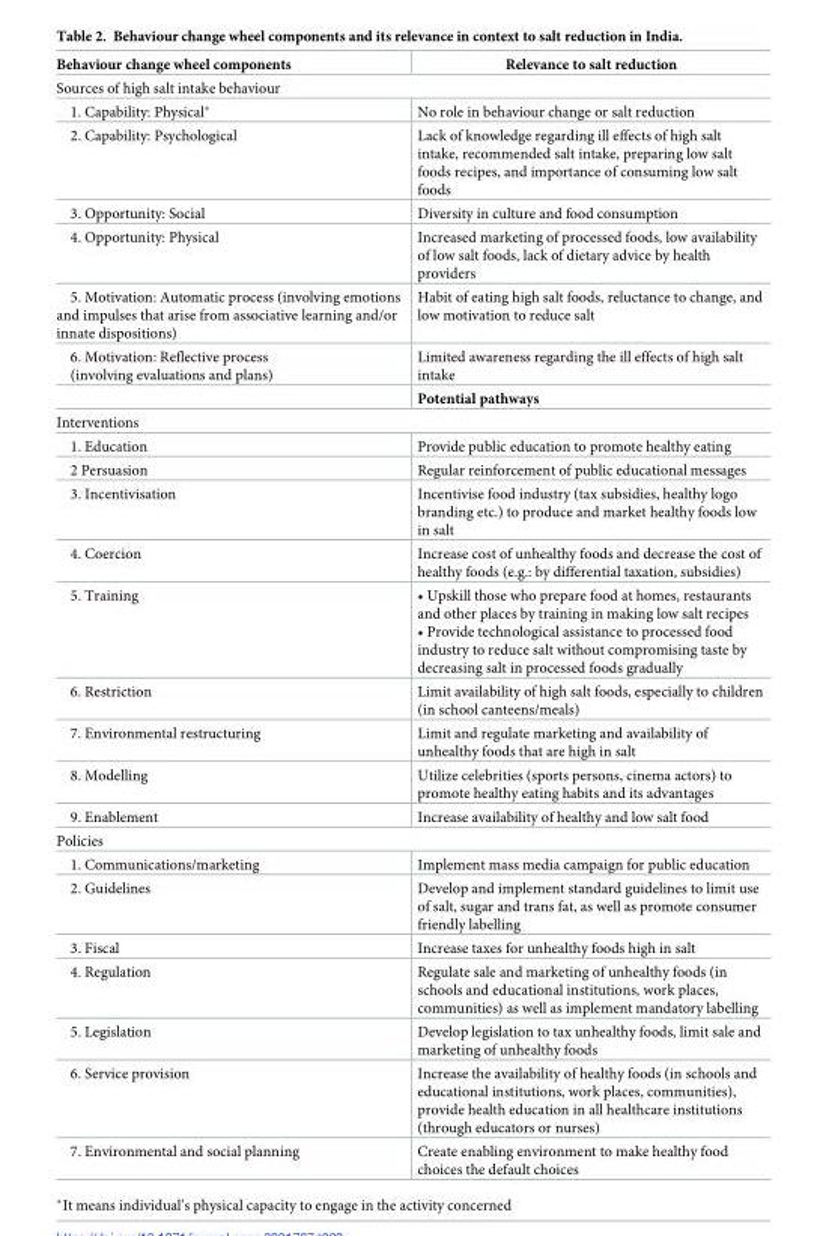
<table><thead><tr><td>Behaviour change wheel components</td><td>Relevance to salt reduction</td></tr></thead><tbody><tr><td colspan="2">Sources of high salt intake behaviour</td></tr><tr><td>1. Capability: Physical*</td><td>No role in behaviour change or salt reduction</td></tr><tr><td>2. Capability: Psychological</td><td>Lack of knowledge regarding ill effects of high salt intake, recommended salt intake, preparing low salt foods recipes, and importance of consuming low salt foods</td></tr><tr><td>3. Opportunity: Social</td><td>Diversity in culture and food consumption</td></tr><tr><td>4. Opportunity: Physical</td><td>Increased marketing of processed foods, low availability of low salt foods, lack of dietary advice by health providers</td></tr><tr><td>5. Motivation: Automatic process (involving emotions and impulses that arise from associative learning and/or innate dispositions)</td><td>Habit of eating high salt foods, reluctance to change, and low motivation to reduce salt</td></tr><tr><td rowspan="2">6. Motivation: Reflective process (involving evaluations and plans)</td><td>Limited awareness regarding the ill effects of high salt intake</td></tr><tr><td>Potential pathways</td></tr><tr><td colspan="2">Interventions</td></tr><tr><td>1. Education</td><td>Provide public education to promote healthy eating</td></tr><tr><td>2 Persuasion</td><td>Regular reinforcement of public educational messages</td></tr><tr><td>3. Incentivisation</td><td>Incentivise food industry (tax subsidies, healthy logo branding etc.) to produce and market healthy foods low in salt</td></tr><tr><td>4. Coercion</td><td>Increase cost of unhealthy foods and decrease the cost of healthy foods (e.g.: by differential taxation, subsidies)</td></tr><tr><td>5. Training</td><td>• Upskill those who prepare food at homes, restaurants and other places by training in making low salt recipes • Provide technological assistance to processed food industry to reduce salt without compromising taste by decreasing salt in processed foods gradually</td></tr><tr><td>6. Restriction</td><td>Limit availability of high salt foods, especially to children (in school canteens/meals)</td></tr><tr><td>7. Environmental restructuring</td><td>Limit and regulate marketing and availability of unhealthy foods that are high in salt</td></tr><tr><td>8. Modelling</td><td>Utilize celebrities (sports persons, cinema actors) to promote healthy eating habits and its advantages</td></tr><tr><td>9. Enablement</td><td>Increase availability of healthy and low salt food</td></tr><tr><td colspan="2">Policies</td></tr><tr><td>1. Communications/marketing</td><td>Implement mass media campaign for public education</td></tr><tr><td>2. Guidelines</td><td>Develop and implement standard guidelines to limit use of salt, sugar and trans fat, as well as promote consumer friendly labelling</td></tr><tr><td>3. Fiscal</td><td>Increase taxes for unhealthy foods high in salt</td></tr><tr><td>4. Regulation</td><td>Regulate sale and marketing of unhealthy foods (in schools and educational institutions, work places, communities) as well as implement mandatory labelling</td></tr><tr><td>5. Legislation</td><td>Develop legislation to tax unhealthy foods, limit sale and marketing of unhealthy foods</td></tr><tr><td>6. Service provision</td><td>Increase the availability of healthy foods (in schools and educational institutions, work places, communities), provide health education in all healthcare institutions (through educators or nurses)</td></tr><tr><td>7. Environmental and social planning</td><td>Create enabling environment to make healthy food choices the default choices</td></tr></tbody></table>